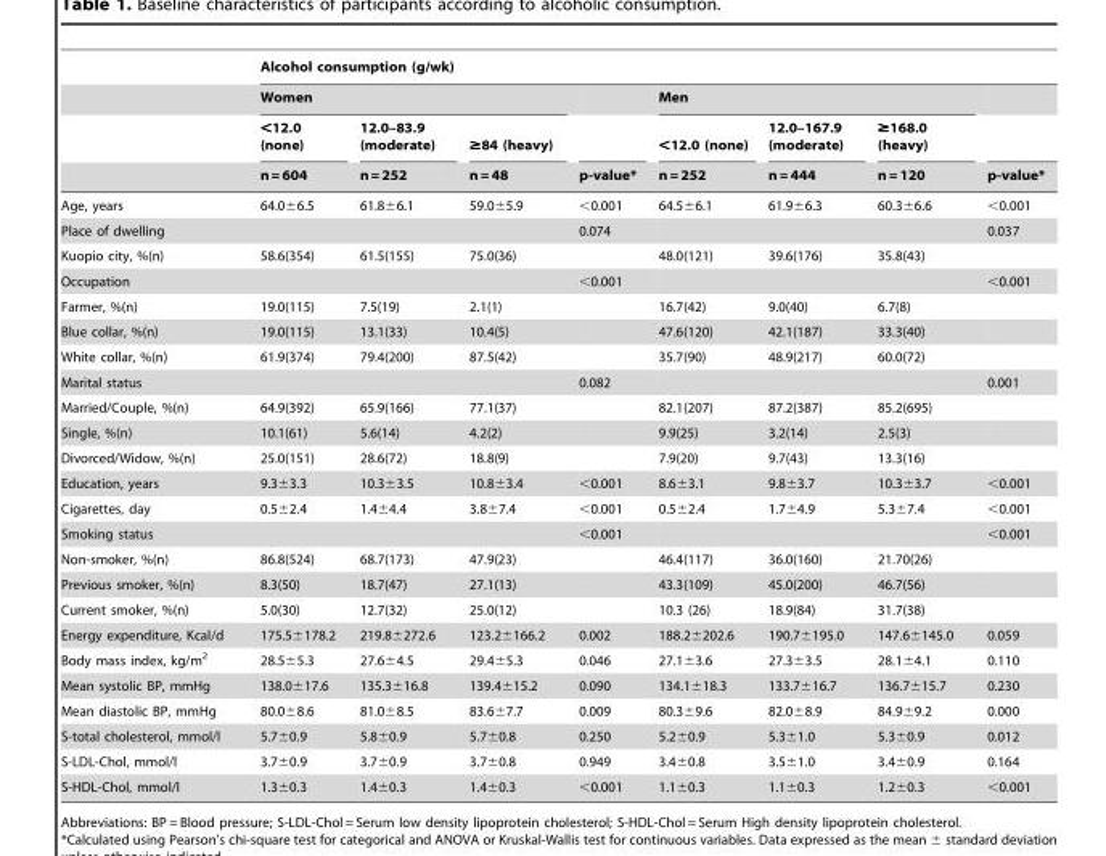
<table><thead><tr><td rowspan="4"></td><td colspan="8">Alcohol consumption (g/wk)</td></tr><tr><td colspan="3">Women</td><td rowspan="3">p-value*</td><td colspan="3">Men</td><td rowspan="3">p-value*</td></tr><tr><td rowspan="2">&lt;12.0 (none) n = 604</td><td rowspan="2">12.0–83.9 (moderate) n = 252</td><td rowspan="2">≥84 (heavy) n = 48</td><td rowspan="2">&lt;12.0 (none) n = 252</td><td rowspan="2">12.0–167.9 (moderate) n = 444</td><td rowspan="2">≥168.0 (heavy) n = 120</td></tr><tr></tr></thead><tbody><tr><td>Age, years</td><td>64.0±6.5</td><td>61.8±6.1</td><td>59.0±5.9</td><td>&lt;0.001</td><td>64.5±6.1</td><td>61.9±6.3</td><td>60.3±6.6</td><td>&lt;0.001</td></tr><tr><td>Place of dwelling</td><td></td><td></td><td></td><td>0.074</td><td></td><td></td><td></td><td>0.037</td></tr><tr><td>Kuopio city, %(n)</td><td>58.6(354)</td><td>61.5(155)</td><td>75.0(36)</td><td></td><td>48.0(121)</td><td>39.6(176)</td><td>35.8(43)</td><td></td></tr><tr><td>Occupation</td><td></td><td></td><td></td><td>&lt;0.001</td><td></td><td></td><td></td><td>&lt;0.001</td></tr><tr><td>Farmer, %(n)</td><td>19.0(115)</td><td>7.5(19)</td><td>2.1(1)</td><td></td><td>16.7(42)</td><td>9.0(40)</td><td>6.7(8)</td><td></td></tr><tr><td>Blue collar, %(n)</td><td>19.0(115)</td><td>13.1(33)</td><td>10.4(5)</td><td></td><td>47.6(120)</td><td>42.1(187)</td><td>33.3(40)</td><td></td></tr><tr><td>White collar, %(n)</td><td>61.9(374)</td><td>79.4(200)</td><td>87.5(42)</td><td></td><td>35.7(90)</td><td>48.9(217)</td><td>60.0(72)</td><td></td></tr><tr><td>Marital status</td><td></td><td></td><td></td><td>0.082</td><td></td><td></td><td></td><td>0.001</td></tr><tr><td>Married/Couple, %(n)</td><td>64.9(392)</td><td>65.9(166)</td><td>77.1(37)</td><td></td><td>82.1(207)</td><td>87.2(387)</td><td>85.2(695)</td><td></td></tr><tr><td>Single, %(n)</td><td>10.1(61)</td><td>5.6(14)</td><td>4.2(2)</td><td></td><td>9.9(25)</td><td>3.2(14)</td><td>2.5(3)</td><td></td></tr><tr><td>Divorced/Widow, %(n)</td><td>25.0(151)</td><td>28.6(72)</td><td>18.8(9)</td><td></td><td>7.9(20)</td><td>9.7(43)</td><td>13.3(16)</td><td></td></tr><tr><td>Education, years</td><td>9.3±3.3</td><td>10.3±3.5</td><td>10.8±3.4</td><td>&lt;0.001</td><td>8.6±3.1</td><td>9.8±3.7</td><td>10.3±3.7</td><td>&lt;0.001</td></tr><tr><td>Cigarettes, day</td><td>0.5±2.4</td><td>1.4±4.4</td><td>3.8±7.4</td><td>&lt;0.001</td><td>0.5±2.4</td><td>1.7±4.9</td><td>5.3±7.4</td><td>&lt;0.001</td></tr><tr><td>Smoking status</td><td></td><td></td><td></td><td>&lt;0.001</td><td></td><td></td><td></td><td>&lt;0.001</td></tr><tr><td>Non-smoker, %(n)</td><td>86.8(524)</td><td>68.7(173)</td><td>47.9(23)</td><td></td><td>46.4(117)</td><td>36.0(160)</td><td>21.70(26)</td><td></td></tr><tr><td>Previous smoker, %(n)</td><td>8.3(50)</td><td>18.7(47)</td><td>27.1(13)</td><td></td><td>43.3(109)</td><td>45.0(200)</td><td>46.7(56)</td><td></td></tr><tr><td>Current smoker, %(n)</td><td>5.0(30)</td><td>12.7(32)</td><td>25.0(12)</td><td></td><td>10.3 (26)</td><td>18.9(84)</td><td>31.7(38)</td><td></td></tr><tr><td>Energy expenditure, Kcal/d</td><td>175.5±178.2</td><td>219.8±272.6</td><td>123.2±166.2</td><td>0.002</td><td>188.2±202.6</td><td>190.7±195.0</td><td>147.6±145.0</td><td>0.059</td></tr><tr><td>Body mass index, kg/m<sup>2</sup></td><td>28.5±5.3</td><td>27.6±4.5</td><td>29.4±5.3</td><td>0.046</td><td>27.1±3.6</td><td>27.3±3.5</td><td>28.1±4.1</td><td>0.110</td></tr><tr><td>Mean systolic BP, mmHg</td><td>138.0±17.6</td><td>135.3±16.8</td><td>139.4±15.2</td><td>0.090</td><td>134.1±18.3</td><td>133.7±16.7</td><td>136.7±15.7</td><td>0.230</td></tr><tr><td>Mean diastolic BP, mmHg</td><td>80.0±8.6</td><td>81.0±8.5</td><td>83.6±7.7</td><td>0.009</td><td>80.3±9.6</td><td>82.0±8.9</td><td>84.9±9.2</td><td>0.000</td></tr><tr><td>S-total cholesterol, mmol/l</td><td>5.7±0.9</td><td>5.8±0.9</td><td>5.7±0.8</td><td>0.250</td><td>5.2±0.9</td><td>5.3±1.0</td><td>5.3±0.9</td><td>0.012</td></tr><tr><td>S-LDL-Chol, mmol/l</td><td>3.7±0.9</td><td>3.7±0.9</td><td>3.7±0.8</td><td>0.949</td><td>3.4±0.8</td><td>3.5±1.0</td><td>3.4±0.9</td><td>0.164</td></tr><tr><td>S-HDL-Chol, mmol/l</td><td>1.3±0.3</td><td>1.4±0.3</td><td>1.4±0.3</td><td>&lt;0.001</td><td>1.1±0.3</td><td>1.1±0.3</td><td>1.2±0.3</td><td>&lt;0.001</td></tr></tbody></table>